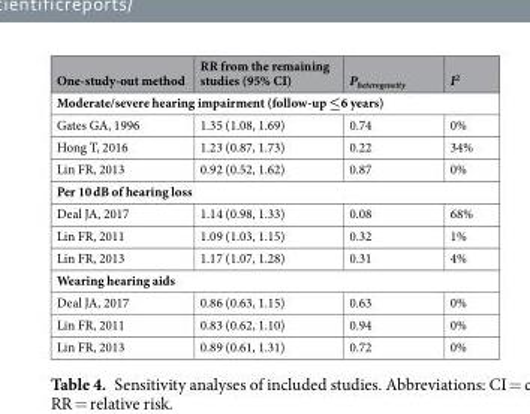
<table><thead><tr><td>One-study-out method</td><td>RR from the remaining studies (95% CI)</td><td>P<sub>heterogeneity</sub></td><td>I<sup>2</sup></td></tr></thead><tbody><tr><td colspan="4">Moderate/severe hearing impairment (follow-up ≤6 years)</td></tr><tr><td>Gates GA, 1996</td><td>1.35 (1.08, 1.69)</td><td>0.74</td><td>0%</td></tr><tr><td>Hong T, 2016</td><td>1.23 (0.87, 1.73)</td><td>0.22</td><td>34%</td></tr><tr><td>Lin FR, 2013</td><td>0.92 (0.52, 1.62)</td><td>0.87</td><td>0%</td></tr><tr><td colspan="4">Per 10 dB of hearing loss</td></tr><tr><td>Deal JA, 2017</td><td>1.14 (0.98, 1.33)</td><td>0.08</td><td>68%</td></tr><tr><td>Lin FR, 2011</td><td>1.09 (1.03, 1.15)</td><td>0.32</td><td>1%</td></tr><tr><td>Lin FR, 2013</td><td>1.17 (1.07, 1.28)</td><td>0.31</td><td>4%</td></tr><tr><td colspan="4">Wearing hearing aids</td></tr><tr><td>Deal JA, 2017</td><td>0.86 (0.63, 1.15)</td><td>0.63</td><td>0%</td></tr><tr><td>Lin FR, 2011</td><td>0.83 (0.62, 1.10)</td><td>0.94</td><td>0%</td></tr><tr><td>Lin FR, 2013</td><td>0.89 (0.61, 1.31)</td><td>0.72</td><td>0%</td></tr></tbody></table>